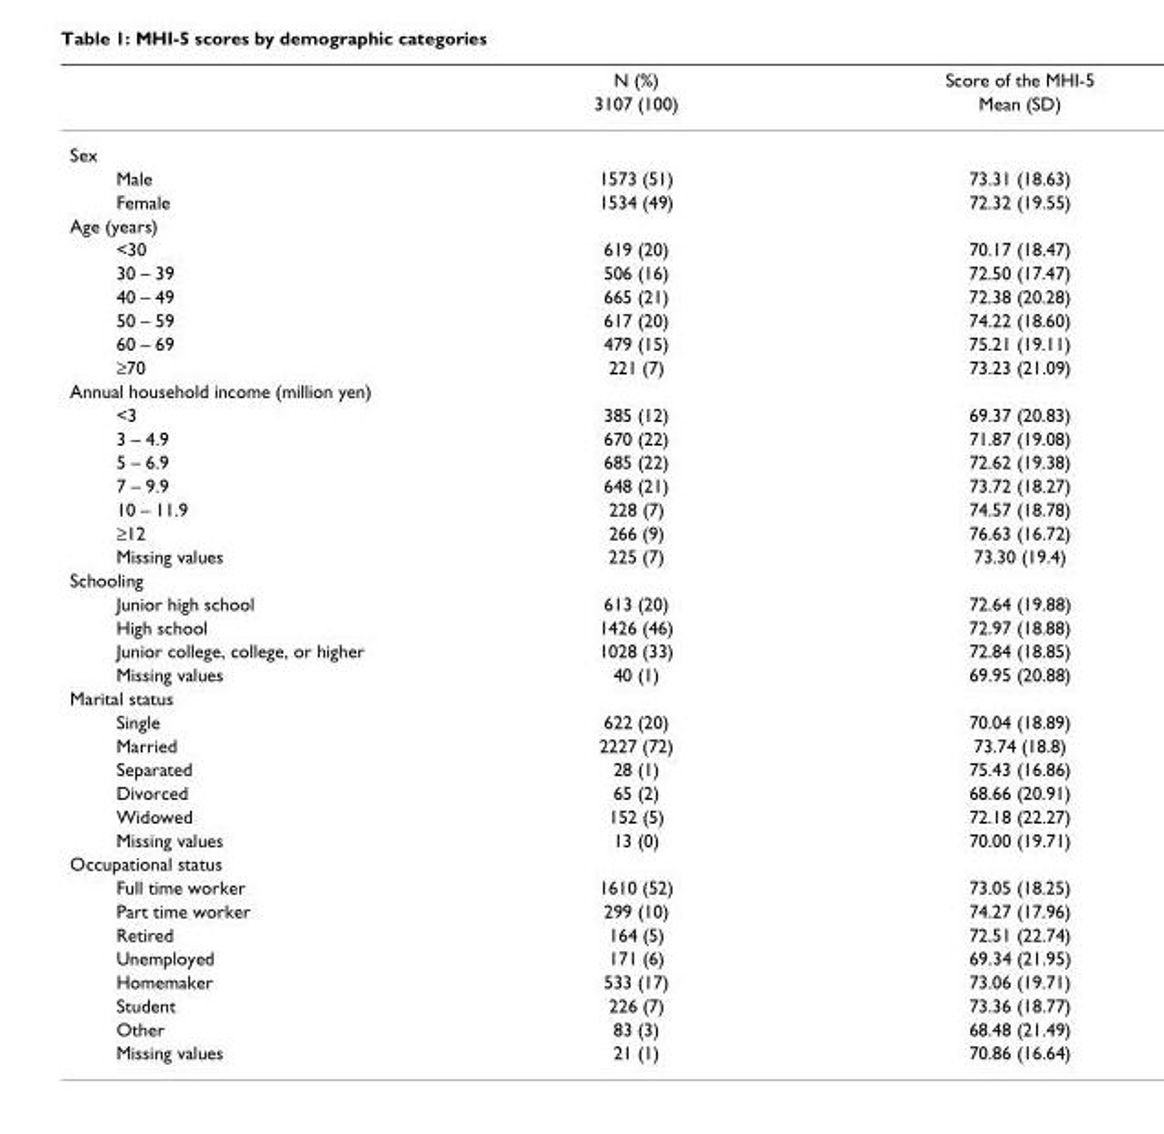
<table><thead><tr><td rowspan="2"></td><td rowspan="2">N (%) 3107 (100)</td><td rowspan="2">Score of the MHI-5 Mean (SD)</td></tr><tr></tr></thead><tbody><tr><td colspan="3">Sex</td></tr><tr><td>Male</td><td>1573 (51)</td><td>73.31 (18.63)</td></tr><tr><td>Female</td><td>1534 (49)</td><td>72.32 (19.55)</td></tr><tr><td colspan="3">Age (years)</td></tr><tr><td>&lt;30</td><td>619 (20)</td><td>70.17 (18.47)</td></tr><tr><td>30 – 39</td><td>506 (16)</td><td>72.50 (17.47)</td></tr><tr><td>40 – 49</td><td>665 (21)</td><td>72.38 (20.28)</td></tr><tr><td>50 – 59</td><td>617 (20)</td><td>74.22 (18.60)</td></tr><tr><td>60 – 69</td><td>479 (15)</td><td>75.21 (19.11)</td></tr><tr><td>≥70</td><td>221 (7)</td><td>73.23 (21.09)</td></tr><tr><td colspan="3">Annual household income (million yen)</td></tr><tr><td>&lt;3</td><td>385 (12)</td><td>69.37 (20.83)</td></tr><tr><td>3 – 4.9</td><td>670 (22)</td><td>71.87 (19.08)</td></tr><tr><td>5 – 6.9</td><td>685 (22)</td><td>72.62 (19.38)</td></tr><tr><td>7 – 9.9</td><td>648 (21)</td><td>73.72 (18.27)</td></tr><tr><td>10 – 11.9</td><td>228 (7)</td><td>74.57 (18.78)</td></tr><tr><td>≥12</td><td>266 (9)</td><td>76.63 (16.72)</td></tr><tr><td>Missing values</td><td>225 (7)</td><td>73.30 (19.4)</td></tr><tr><td colspan="3">Schooling</td></tr><tr><td>Junior high school</td><td>613 (20)</td><td>72.64 (19.88)</td></tr><tr><td>High school</td><td>1426 (46)</td><td>72.97 (18.88)</td></tr><tr><td>Junior college, college, or higher</td><td>1028 (33)</td><td>72.84 (18.85)</td></tr><tr><td>Missing values</td><td>40 (1)</td><td>69.95 (20.88)</td></tr><tr><td colspan="3">Marital status</td></tr><tr><td>Single</td><td>622 (20)</td><td>70.04 (18.89)</td></tr><tr><td>Married</td><td>2227 (72)</td><td>73.74 (18.8)</td></tr><tr><td>Separated</td><td>28 (1)</td><td>75.43 (16.86)</td></tr><tr><td>Divorced</td><td>65 (2)</td><td>68.66 (20.91)</td></tr><tr><td>Widowed</td><td>152 (5)</td><td>72.18 (22.27)</td></tr><tr><td>Missing values</td><td>13 (0)</td><td>70.00 (19.71)</td></tr><tr><td colspan="3">Occupational status</td></tr><tr><td>Full time worker</td><td>1610 (52)</td><td>73.05 (18.25)</td></tr><tr><td>Part time worker</td><td>299 (10)</td><td>74.27 (17.96)</td></tr><tr><td>Retired</td><td>164 (5)</td><td>72.51 (22.74)</td></tr><tr><td>Unemployed</td><td>171 (6)</td><td>69.34 (21.95)</td></tr><tr><td>Homemaker</td><td>533 (17)</td><td>73.06 (19.71)</td></tr><tr><td>Student</td><td>226 (7)</td><td>73.36 (18.77)</td></tr><tr><td>Other</td><td>83 (3)</td><td>68.48 (21.49)</td></tr><tr><td>Missing values</td><td>21 (1)</td><td>70.86 (16.64)</td></tr></tbody></table>